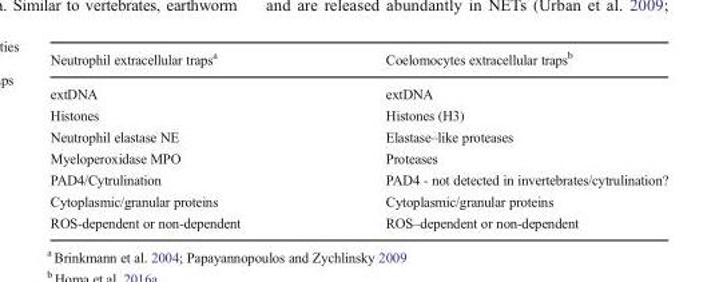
<table><thead><tr><td>Neutrophil extracellular traps<sup>a</sup></td><td>Coelomocytes extracellular traps<sup>b</sup></td></tr></thead><tbody><tr><td>extDNA</td><td>extDNA</td></tr><tr><td>Histones</td><td>Histones (H3)</td></tr><tr><td>Neutrophil elastase NE</td><td>Elastase–like proteases</td></tr><tr><td>Myeloperoxidase MPO</td><td>Proteases</td></tr><tr><td>PAD4/Cytrulination</td><td>PAD4 - not detected in invertebrates/cytrulination?</td></tr><tr><td>Cytoplasmic/granular proteins</td><td>Cytoplasmic/granular proteins</td></tr><tr><td>ROS-dependent or non-dependent</td><td>ROS–dependent or non-dependent</td></tr></tbody></table>